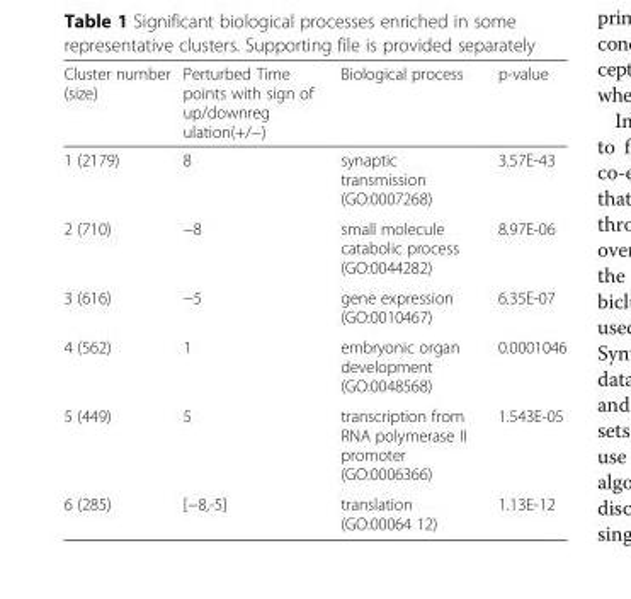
<table><thead><tr><td>Cluster number (size)</td><td>Perturbed Time points with sign of up/downreg ulation(+/−)</td><td>Biological process</td><td>p-value</td></tr></thead><tbody><tr><td>1 (2179)</td><td>8</td><td>synaptic transmission (GO:0007268)</td><td>3.57E-43</td></tr><tr><td>2 (710)</td><td>−8</td><td>small molecule catabolic process (GO:0044282)</td><td>8.97E-06</td></tr><tr><td>3 (616)</td><td>−5</td><td>gene expression (GO:0010467)</td><td>6.35E-07</td></tr><tr><td>4 (562)</td><td>1</td><td>embryonic organ development (GO:0048568)</td><td>0.0001046</td></tr><tr><td>5 (449)</td><td>5</td><td>transcription from RNA polymerase II promoter (GO:0006366)</td><td>1.543E-05</td></tr><tr><td>6 (285)</td><td>[−8,-5]</td><td>translation (GO:00064 12)</td><td>1.13E-12</td></tr></tbody></table>